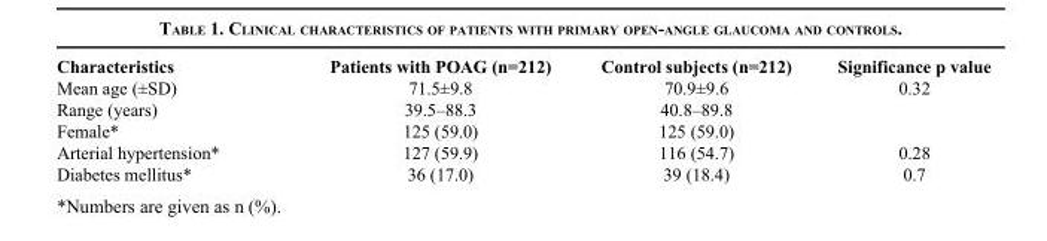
<table><thead><tr><td>Characteristics</td><td>Patients with POAG (n=212)</td><td>Control subjects (n=212)</td><td>Significance p value</td></tr></thead><tbody><tr><td>Mean age (±SD)</td><td>71.5±9.8</td><td>70.9±9.6</td><td>0.32</td></tr><tr><td>Range (years)</td><td>39.5–88.3</td><td>40.8–89.8</td><td></td></tr><tr><td>Female*</td><td>125 (59.0)</td><td>125 (59.0)</td><td></td></tr><tr><td>Arterial hypertension*</td><td>127 (59.9)</td><td>116 (54.7)</td><td>0.28</td></tr><tr><td>Diabetes mellitus*</td><td>36 (17.0)</td><td>39 (18.4)</td><td>0.7</td></tr></tbody></table>